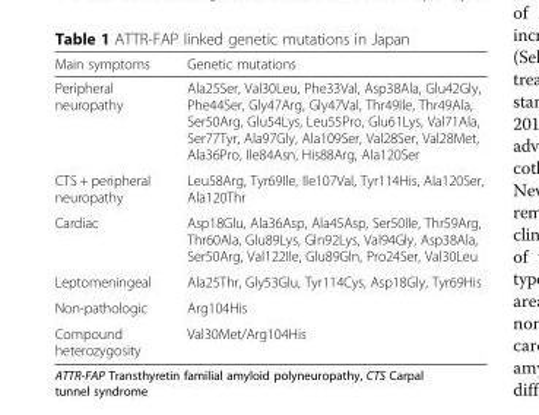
<table><thead><tr><td>Main symptoms</td><td>Genetic mutations</td></tr></thead><tbody><tr><td>Peripheral neuropathy</td><td>Ala25Ser, Val30Leu, Phe33Val, Asp38Ala, Glu42Gly, Phe44Ser, Gly47Arg, Gly47Val, Thr49Ile, Thr49Ala, Ser50Arg, Glu54Lys, Leu55Pro, Glu61Lys, Val71Ala, Ser77Tyr, Ala97Gly, Ala109Ser, Val28Ser, Val28Met, Ala36Pro, Ile84Asn, His88Arg, Ala120Ser</td></tr><tr><td>CTS + peripheral neuropathy</td><td>Leu58Arg, Tyr69Ile, Ile107Val, Tyr114His, Ala120Ser, Ala120Thr</td></tr><tr><td>Cardiac</td><td>Asp18Glu, Ala36Asp, Ala45Asp, Ser50Ile, Thr59Arg, Thr60Ala, Glu89Lys, Gln92Lys, Val94Gly, Asp38Ala, Ser50Arg, Val122Ile, Glu89Gln, Pro24Ser, Val30Leu</td></tr><tr><td>Leptomeningeal</td><td>Ala25Thr, Gly53Glu, Tyr114Cys, Asp18Gly, Tyr69His</td></tr><tr><td>Non-pathologic</td><td>Arg104His</td></tr><tr><td>Compound heterozygosity</td><td>Val30Met/Arg104His</td></tr></tbody></table>